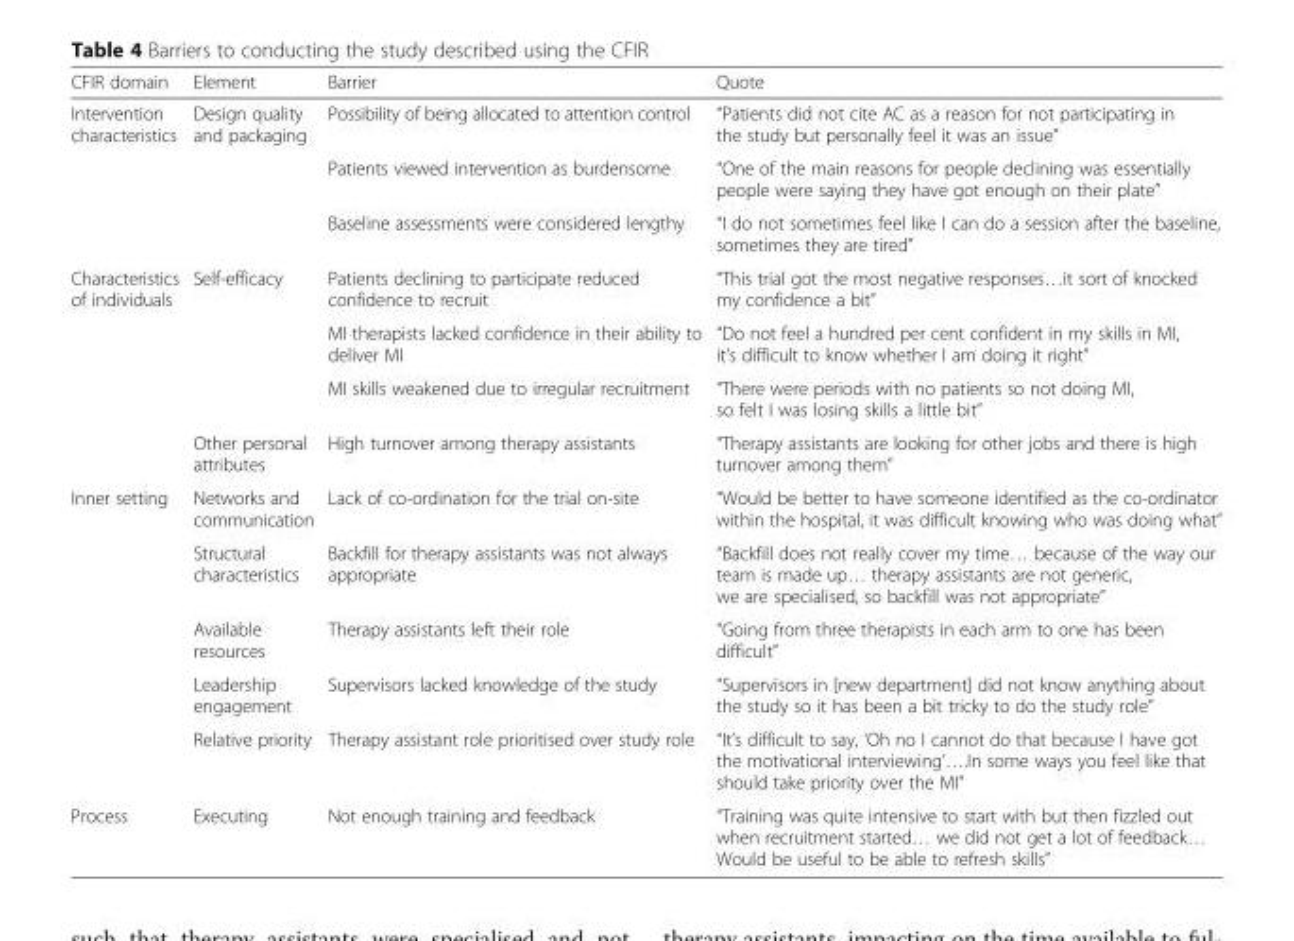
<table><thead><tr><td>CFIR domain</td><td>Element</td><td>Barrier</td><td>Quote</td></tr></thead><tbody><tr><td rowspan="3">Intervention characteristics</td><td>Design quality and packaging</td><td>Possibility of being allocated to attention control</td><td>“Patients did not cite AC as a reason for not participating in the study but personally feel it was an issue”</td></tr><tr><td></td><td>Patients viewed intervention as burdensome</td><td>“One of the main reasons for people declining was essentially people were saying they have got enough on their plate”</td></tr><tr><td></td><td>Baseline assessments were considered lengthy</td><td>“I do not sometimes feel like I can do a session after the baseline, sometimes they are tired”</td></tr><tr><td rowspan="4">Characteristics of individuals</td><td>Self-efficacy</td><td>Patients declining to participate reduced confidence to recruit</td><td>“This trial got the most negative responses…it sort of knocked my confidence a bit”</td></tr><tr><td></td><td>MI therapists lacked confidence in their ability to deliver MI</td><td>“Do not feel a hundred per cent confident in my skills in MI, it’s difficult to know whether I am doing it right”</td></tr><tr><td></td><td>MI skills weakened due to irregular recruitment</td><td>“There were periods with no patients so not doing MI, so felt I was losing skills a little bit”</td></tr><tr><td>Other personal attributes</td><td>High turnover among therapy assistants</td><td>“Therapy assistants are looking for other jobs and there is high turnover among them”</td></tr><tr><td rowspan="5">Inner setting</td><td>Networks and communication</td><td>Lack of co-ordination for the trial on-site</td><td>“Would be better to have someone identified as the co-ordinator within the hospital, it was difficult knowing who was doing what”</td></tr><tr><td>Structural characteristics</td><td>Backfill for therapy assistants was not always appropriate</td><td>“Backfill does not really cover my time… because of the way our team is made up… therapy assistants are not generic, we are specialised, so backfill was not appropriate”</td></tr><tr><td>Available resources</td><td>Therapy assistants left their role</td><td>“Going from three therapists in each arm to one has been difficult”</td></tr><tr><td>Leadership engagement</td><td>Supervisors lacked knowledge of the study</td><td>“Supervisors in [new department] did not know anything about the study so it has been a bit tricky to do the study role”</td></tr><tr><td>Relative priority</td><td>Therapy assistant role prioritised over study role</td><td>“It’s difficult to say, ‘Oh no I cannot do that because I have got the motivational interviewing’….In some ways you feel like that should take priority over the MI”</td></tr><tr><td>Process</td><td>Executing</td><td>Not enough training and feedback</td><td>“Training was quite intensive to start with but then fizzled out when recruitment started… we did not get a lot of feedback… Would be useful to be able to refresh skills”</td></tr></tbody></table>